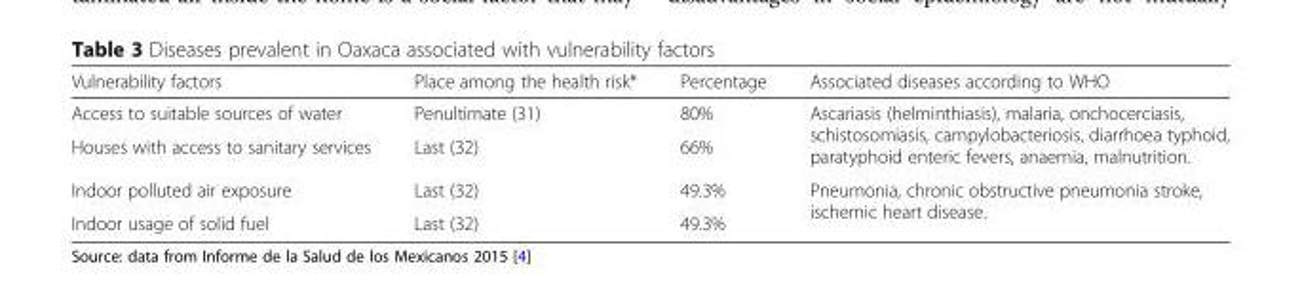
<table><thead><tr><td>Vulnerability factors</td><td>Place among the health risk*</td><td>Percentage</td><td>Associated diseases according to WHO</td></tr></thead><tbody><tr><td>Access to suitable sources of water</td><td>Penultimate (31)</td><td>80%</td><td rowspan="2">Ascariasis (helminthiasis), malaria, onchocerciasis, schistosomiasis, campylobacteriosis, diarrhoea typhoid, paratyphoid enteric fevers, anaemia, malnutrition.</td></tr><tr><td>Houses with access to sanitary services</td><td>Last (32)</td><td>66%</td></tr><tr><td>Indoor polluted air exposure</td><td>Last (32)</td><td>49.3%</td><td rowspan="2">Pneumonia, chronic obstructive pneumonia stroke, ischemic heart disease.</td></tr><tr><td>Indoor usage of solid fuel</td><td>Last (32)</td><td>49.3%</td></tr></tbody></table>